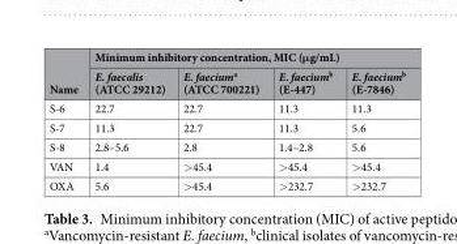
<table><thead><tr><td rowspan="2">Name</td><td colspan="4">Minimum inhibitory concentration, MIC (μg/mL)</td></tr><tr><td>E. faecalis (ATCC 29212)</td><td>E. faecium<sup>a</sup> (ATCC 700221)</td><td>E. faecium<sup>b</sup> (E-447)</td><td>E. faecium<sup>b</sup> (E-7846)</td></tr></thead><tbody><tr><td>S-6</td><td>22.7</td><td>22.7</td><td>11.3</td><td>11.3</td></tr><tr><td>S-7</td><td>11.3</td><td>22.7</td><td>11.3</td><td>5.6</td></tr><tr><td>S-8</td><td>2.8–5.6</td><td>2.8</td><td>1.4–2.8</td><td>5.6</td></tr><tr><td>VAN</td><td>1.4</td><td>&gt;45.4</td><td>&gt;45.4</td><td>&gt;45.4</td></tr><tr><td>OXA</td><td>5.6</td><td>&gt;45.4</td><td>&gt;232.7</td><td>&gt;232.7</td></tr></tbody></table>